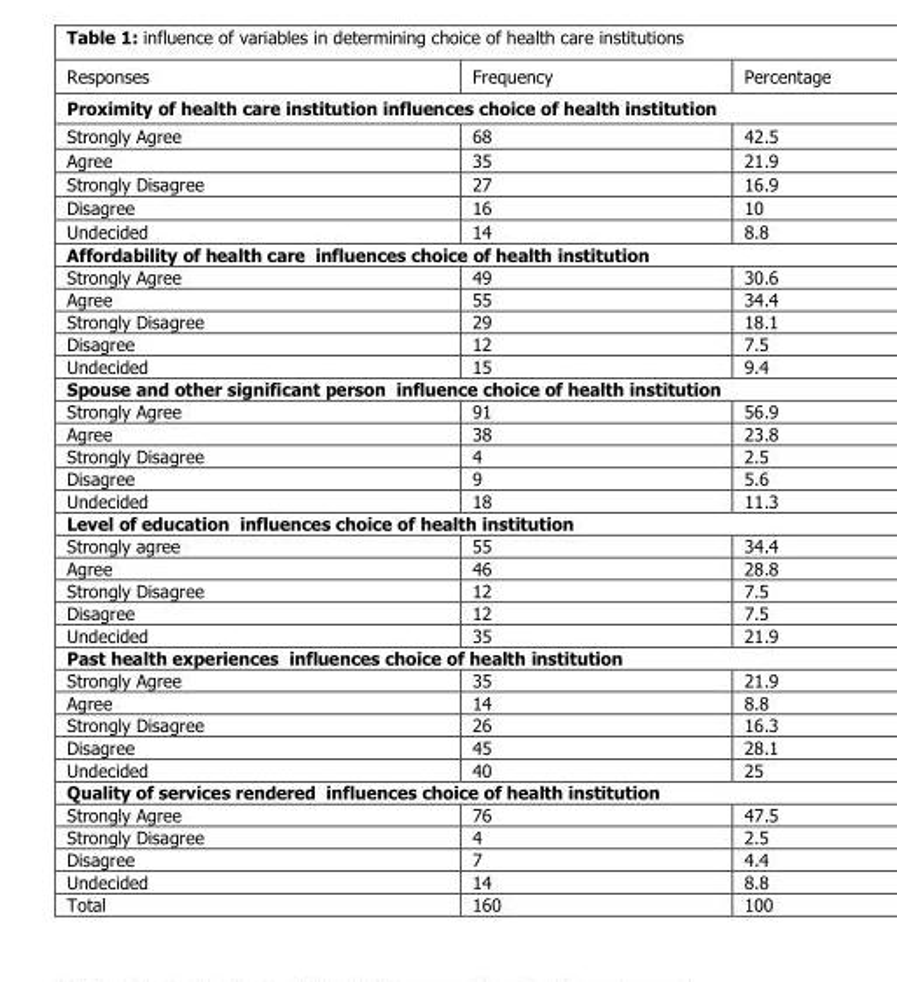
<table><thead><tr><td>Responses</td><td>Frequency</td><td>Percentage</td></tr></thead><tbody><tr><td colspan="3">Proximity of health care institution influences choice of health institution</td></tr><tr><td>Strongly Agree</td><td>68</td><td>42.5</td></tr><tr><td>Agree</td><td>35</td><td>21.9</td></tr><tr><td>Strongly Disagree</td><td>27</td><td>16.9</td></tr><tr><td>Disagree</td><td>16</td><td>10</td></tr><tr><td>Undecided</td><td>14</td><td>8.8</td></tr><tr><td colspan="3">Affordability of health care influences choice of health institution</td></tr><tr><td>Strongly Agree</td><td>49</td><td>30.6</td></tr><tr><td>Agree</td><td>55</td><td>34.4</td></tr><tr><td>Strongly Disagree</td><td>29</td><td>18.1</td></tr><tr><td>Disagree</td><td>12</td><td>7.5</td></tr><tr><td>Undecided</td><td>15</td><td>9.4</td></tr><tr><td colspan="3">Spouse and other significant person influence choice of health institution</td></tr><tr><td>Strongly Agree</td><td>91</td><td>56.9</td></tr><tr><td>Agree</td><td>38</td><td>23.8</td></tr><tr><td>Strongly Disagree</td><td>4</td><td>2.5</td></tr><tr><td>Disagree</td><td>9</td><td>5.6</td></tr><tr><td>Undecided</td><td>18</td><td>11.3</td></tr><tr><td colspan="3">Level of education influences choice of health institution</td></tr><tr><td>Strongly agree</td><td>55</td><td>34.4</td></tr><tr><td>Agree</td><td>46</td><td>28.8</td></tr><tr><td>Strongly Disagree</td><td>12</td><td>7.5</td></tr><tr><td>Disagree</td><td>12</td><td>7.5</td></tr><tr><td>Undecided</td><td>35</td><td>21.9</td></tr><tr><td colspan="3">Past health experiences influences choice of health institution</td></tr><tr><td>Strongly Agree</td><td>35</td><td>21.9</td></tr><tr><td>Agree</td><td>14</td><td>8.8</td></tr><tr><td>Strongly Disagree</td><td>26</td><td>16.3</td></tr><tr><td>Disagree</td><td>45</td><td>28.1</td></tr><tr><td>Undecided</td><td>40</td><td>25</td></tr><tr><td colspan="3">Quality of services rendered influences choice of health institution</td></tr><tr><td>Strongly Agree</td><td>76</td><td>47.5</td></tr><tr><td>Strongly Disagree</td><td>4</td><td>2.5</td></tr><tr><td>Disagree</td><td>7</td><td>4.4</td></tr><tr><td>Undecided</td><td>14</td><td>8.8</td></tr><tr><td>Total</td><td>160</td><td>100</td></tr></tbody></table>